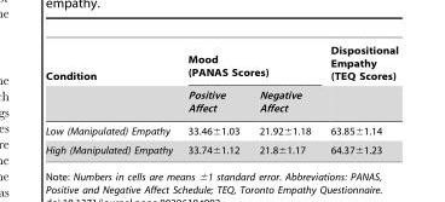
<table><thead><tr><td rowspan="2">Condition</td><td colspan="2">Mood (PANAS Scores)</td><td rowspan="2">Dispositional Empathy (TEQ Scores)</td></tr><tr><td>Positive Affect</td><td>Negative Affect</td></tr></thead><tbody><tr><td>Low (Manipulated) Empathy</td><td>33.46±1.03</td><td>21.92±1.18</td><td>63.85±1.14</td></tr><tr><td>High (Manipulated) Empathy</td><td>33.74±1.12</td><td>21.8±1.17</td><td>64.37±1.23</td></tr></tbody></table>